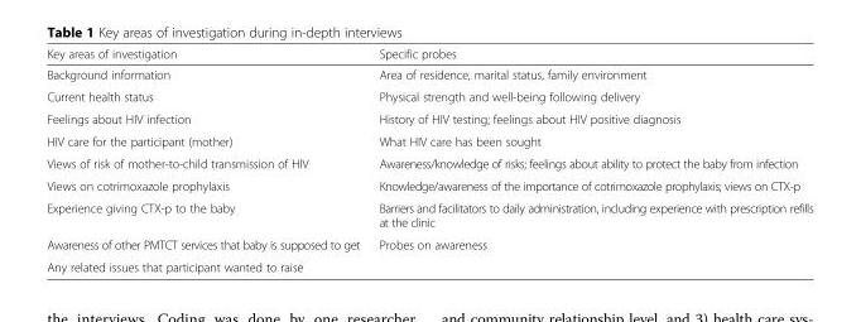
<table><thead><tr><td>Key areas of investigation</td><td>Specific probes</td></tr></thead><tbody><tr><td>Background information</td><td>Area of residence, marital status, family environment</td></tr><tr><td>Current health status</td><td>Physical strength and well-being following delivery</td></tr><tr><td>Feelings about HIV infection</td><td>History of HIV testing; feelings about HIV positive diagnosis</td></tr><tr><td>HIV care for the participant (mother)</td><td>What HIV care has been sought</td></tr><tr><td>Views of risk of mother-to-child transmission of HIV</td><td>Awareness/knowledge of risks; feelings about ability to protect the baby from infection</td></tr><tr><td>Views on cotrimoxazole prophylaxis</td><td>Knowledge/awareness of the importance of cotrimoxazole prophylaxis; views on CTX-p</td></tr><tr><td>Experience giving CTX-p to the baby</td><td>Barriers and facilitators to daily administration, including experience with prescription refills at the clinic</td></tr><tr><td>Awareness of other PMTCT services that baby is supposed to get</td><td>Probes on awareness</td></tr><tr><td>Any related issues that participant wanted to raise</td><td></td></tr></tbody></table>